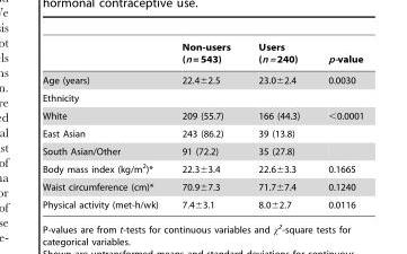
<table><thead><tr><td></td><td>Non-users (n = 543)</td><td>Users (n = 240)</td><td>p-value</td></tr></thead><tbody><tr><td>Age (years)</td><td>22.4±2.5</td><td>23.0±2.4</td><td>0.0030</td></tr><tr><td colspan="4">Ethnicity</td></tr><tr><td>White</td><td>209 (55.7)</td><td>166 (44.3)</td><td>&lt;0.0001</td></tr><tr><td>East Asian</td><td>243 (86.2)</td><td>39 (13.8)</td><td></td></tr><tr><td>South Asian/Other</td><td>91 (72.2)</td><td>35 (27.8)</td><td></td></tr><tr><td>Body mass index (kg/m<sup>2</sup>)*</td><td>22.3±3.4</td><td>22.6±3.3</td><td>0.1665</td></tr><tr><td>Waist circumference (cm)*</td><td>70.9±7.3</td><td>71.7±7.4</td><td>0.1240</td></tr><tr><td>Physical activity (met-h/wk)</td><td>7.4±3.1</td><td>8.0±2.7</td><td>0.0116</td></tr></tbody></table>